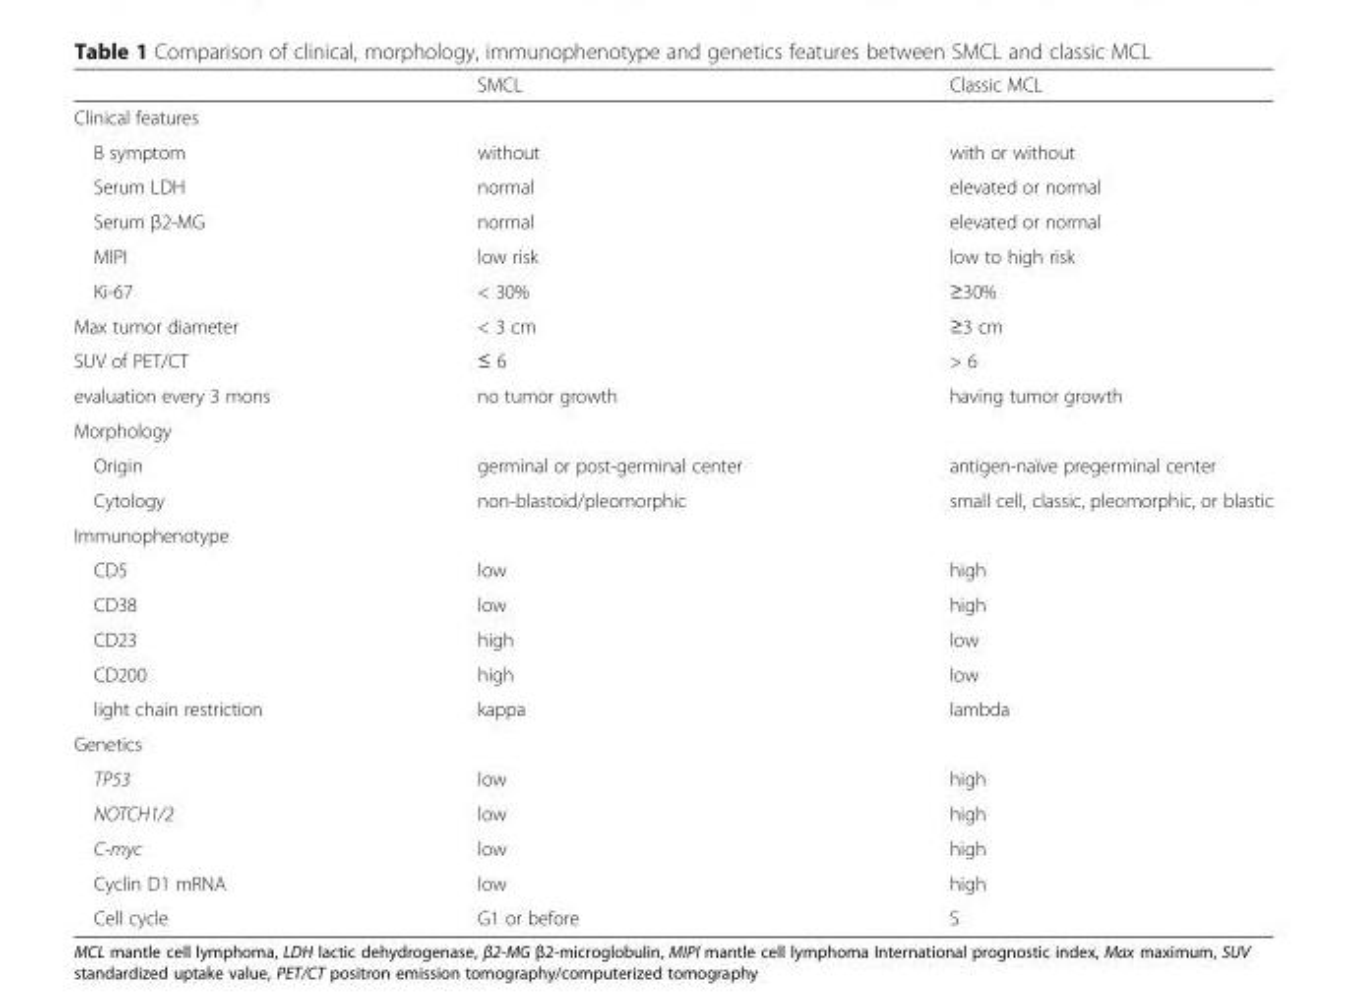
<table><thead><tr><td></td><td>SMCL</td><td>Classic MCL</td></tr></thead><tbody><tr><td colspan="3">Clinical features</td></tr><tr><td>B symptom</td><td>without</td><td>with or without</td></tr><tr><td>Serum LDH</td><td>normal</td><td>elevated or normal</td></tr><tr><td>Serum β2-MG</td><td>normal</td><td>elevated or normal</td></tr><tr><td>MIPI</td><td>low risk</td><td>low to high risk</td></tr><tr><td>Ki-67</td><td>&lt; 30%</td><td>≥30%</td></tr><tr><td>Max tumor diameter</td><td>&lt; 3 cm</td><td>≥3 cm</td></tr><tr><td>SUV of PET/CT</td><td>≤ 6</td><td>&gt; 6</td></tr><tr><td>evaluation every 3 mons</td><td>no tumor growth</td><td>having tumor growth</td></tr><tr><td colspan="3">Morphology</td></tr><tr><td>Origin</td><td>germinal or post-germinal center</td><td>antigen-naïve pregerminal center</td></tr><tr><td>Cytology</td><td>non-blastoid/pleomorphic</td><td>small cell, classic, pleomorphic, or blastic</td></tr><tr><td colspan="3">Immunophenotype</td></tr><tr><td>CD5</td><td>low</td><td>high</td></tr><tr><td>CD38</td><td>low</td><td>high</td></tr><tr><td>CD23</td><td>high</td><td>low</td></tr><tr><td>CD200</td><td>high</td><td>low</td></tr><tr><td>light chain restriction</td><td>kappa</td><td>lambda</td></tr><tr><td colspan="3">Genetics</td></tr><tr><td>TP53</td><td>low</td><td>high</td></tr><tr><td>NOTCH1/2</td><td>low</td><td>high</td></tr><tr><td>C-myc</td><td>low</td><td>high</td></tr><tr><td>Cyclin D1 mRNA</td><td>low</td><td>high</td></tr><tr><td>Cell cycle</td><td>G1 or before</td><td>S</td></tr></tbody></table>